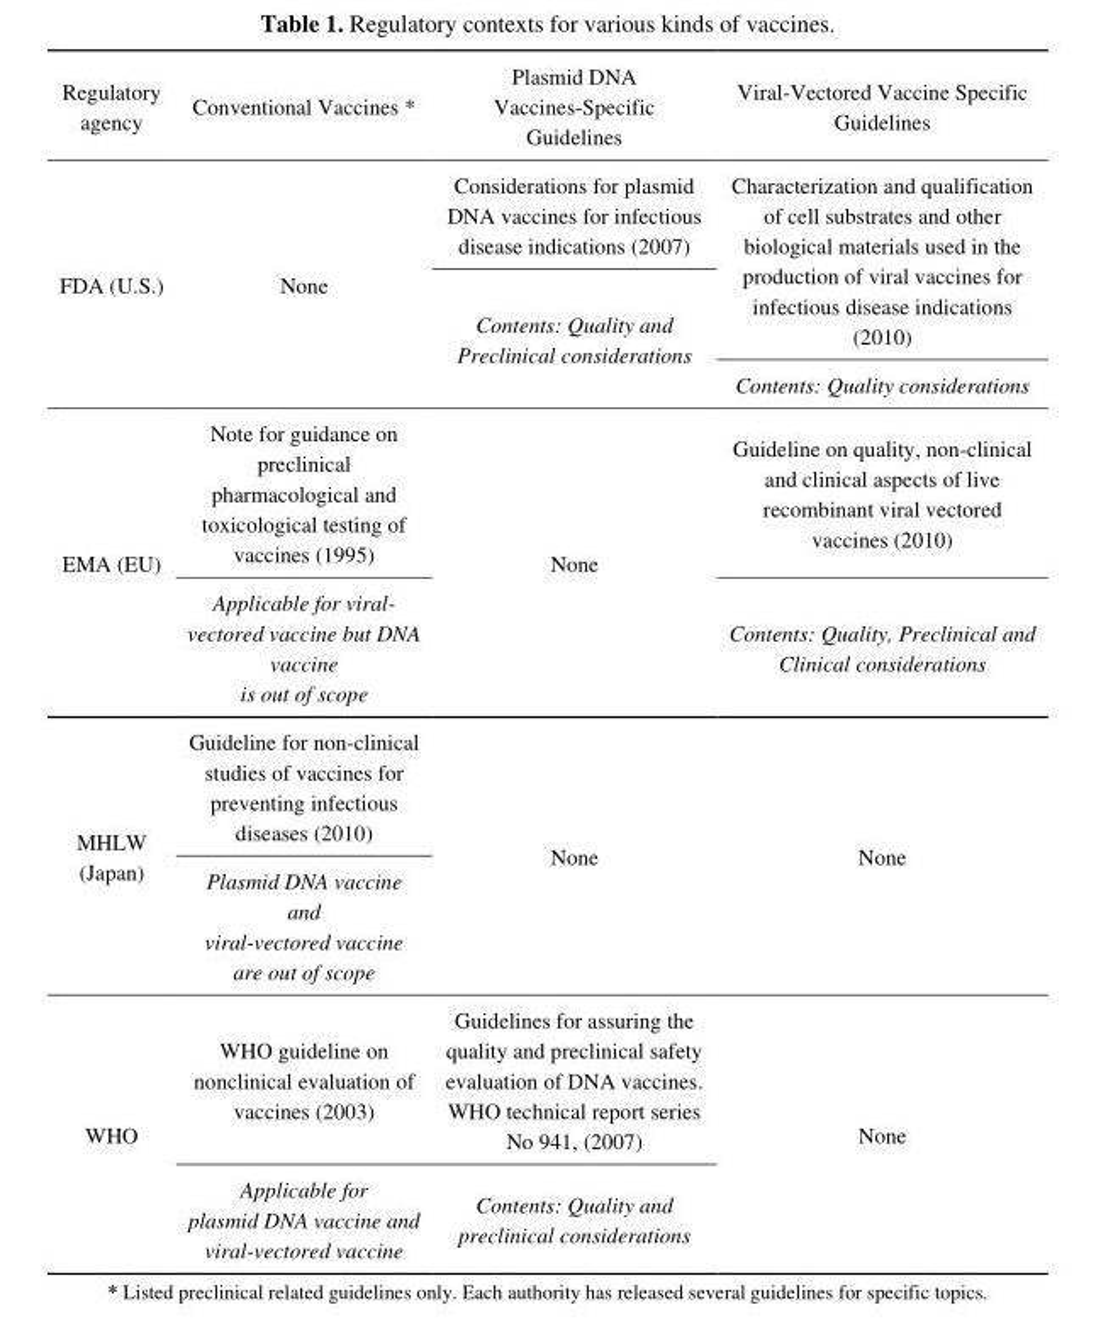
<table><thead><tr><td>Regulatory agency</td><td>Conventional Vaccines *</td><td>Plasmid DNA Vaccines-Specific Guidelines</td><td>Viral-Vectored Vaccine Specific Guidelines</td></tr></thead><tbody><tr><td rowspan="3">FDA (U.S.)</td><td rowspan="3">None</td><td>Considerations for plasmid DNA vaccines for infectious disease indications (2007)</td><td rowspan="2">Characterization and qualification of cell substrates and other biological materials used in the production of viral vaccines for infectious disease indications (2010)</td></tr><tr><td rowspan="2">Contents: Quality and Preclinical considerations</td></tr><tr><td>Contents: Quality considerations</td></tr><tr><td rowspan="2">EMA (EU)</td><td>Note for guidance on preclinical pharmacological and toxicological testing of vaccines (1995)</td><td rowspan="2">None</td><td>Guideline on quality, non-clinical and clinical aspects of live recombinant viral vectored vaccines (2010)</td></tr><tr><td>Applicable for viral- vectored vaccine but DNA vaccine is out of scope</td><td>Contents: Quality, Preclinical and Clinical considerations</td></tr><tr><td rowspan="2">MHLW (Japan)</td><td>Guideline for non-clinical studies of vaccines for preventing infectious diseases (2010)</td><td rowspan="2">None</td><td rowspan="2">None</td></tr><tr><td>Plasmid DNA vaccine and viral-vectored vaccine are out of scope</td></tr><tr><td rowspan="2">WHO</td><td>WHO guideline on nonclinical evaluation of vaccines (2003)</td><td>Guidelines for assuring the quality and preclinical safety evaluation of DNA vaccines. WHO technical report series No 941, (2007)</td><td rowspan="2">None</td></tr><tr><td>Applicable for plasmid DNA vaccine and viral-vectored vaccine</td><td>Contents: Quality and preclinical considerations</td></tr></tbody></table>